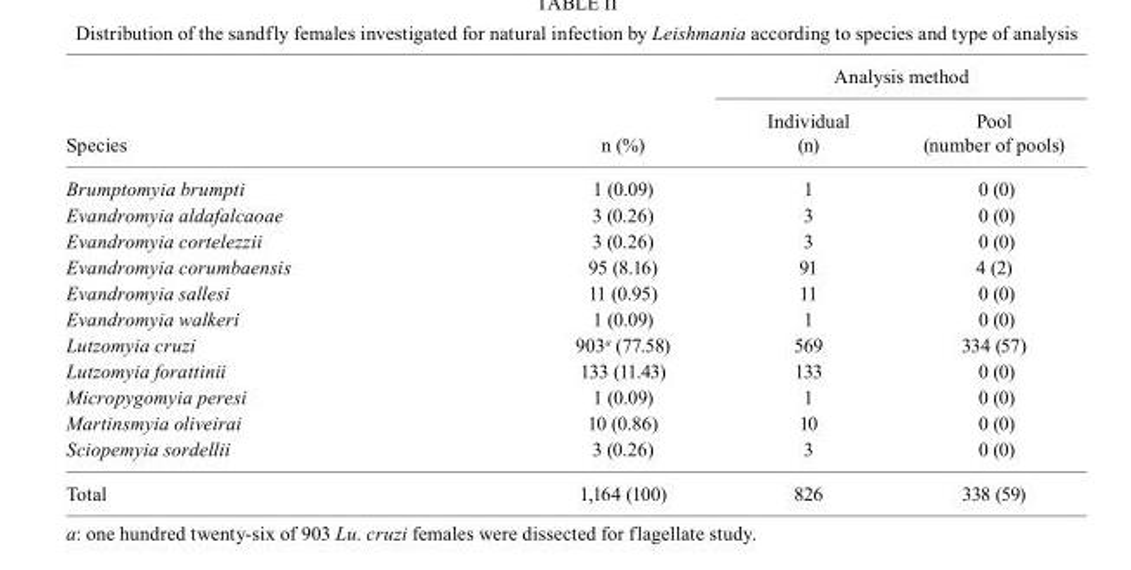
<table><tbody><tr><td rowspan="2">Species</td><td rowspan="2">n (%)</td><td colspan="2">Analysis method</td></tr><tr><td>Individual (n)</td><td>Pool (number of pools)</td></tr><tr><td>Brumptomyia brumpti</td><td>1 (0.09)</td><td>1</td><td>0 (0)</td></tr><tr><td>Evandromyia aldafalcaoae</td><td>3 (0.26)</td><td>3</td><td>0 (0)</td></tr><tr><td>Evandromyia cortelezzii</td><td>3 (0.26)</td><td>3</td><td>0 (0)</td></tr><tr><td>Evandromyia corumbaensis</td><td>95 (8.16)</td><td>91</td><td>4 (2)</td></tr><tr><td>Evandromyia sallesi</td><td>11 (0.95)</td><td>11</td><td>0 (0)</td></tr><tr><td>Evandromyia walkeri</td><td>1 (0.09)</td><td>1</td><td>0 (0)</td></tr><tr><td>Lutzomyia cruzi</td><td>903<sup>a</sup> (77.58)</td><td>569</td><td>334 (57)</td></tr><tr><td>Lutzomyia forattinii</td><td>133 (11.43)</td><td>133</td><td>0 (0)</td></tr><tr><td>Micropygomyia peresi</td><td>1 (0.09)</td><td>1</td><td>0 (0)</td></tr><tr><td>Martinsmyia oliveirai</td><td>10 (0.86)</td><td>10</td><td>0 (0)</td></tr><tr><td>Sciopemyia sordellii</td><td>3 (0.26)</td><td>3</td><td>0 (0)</td></tr><tr><td>Total</td><td>1,164 (100)</td><td>826</td><td>338 (59)</td></tr></tbody></table>